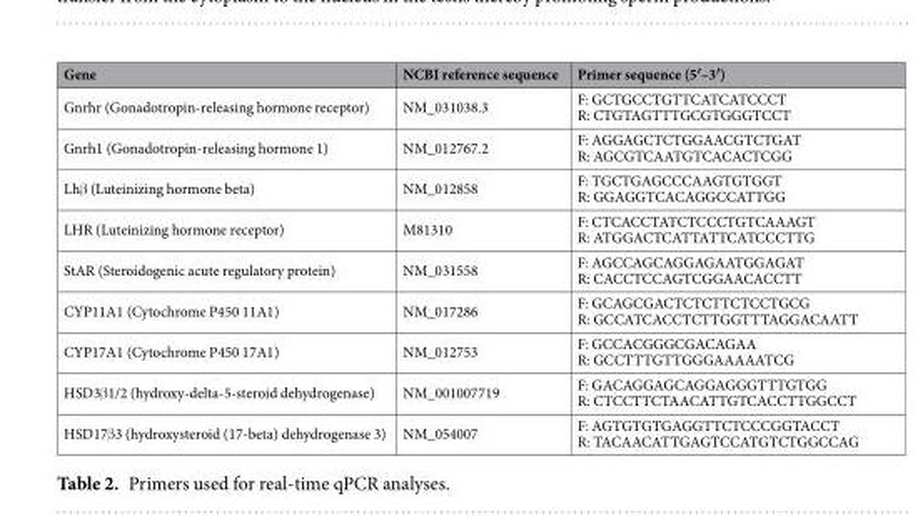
<table><thead><tr><td>Gene</td><td>NCBI reference sequence</td><td>Primer sequence (5′–3′)</td></tr></thead><tbody><tr><td>Gnrhr (Gonadotropin-releasing hormone receptor)</td><td>NM_031038.3</td><td>F: GCTGCCTGTTCATCATCCCT R: CTGTAGTTTGCGTGGGTCCT</td></tr><tr><td>Gnrh1 (Gonadotropin-releasing hormone 1)</td><td>NM_012767.2</td><td>F: AGGAGCTCTGGAACGTCTGAT R: AGCGTCAATGTCACACTCGG</td></tr><tr><td>Lhβ (Luteinizing hormone beta)</td><td>NM_012858</td><td>F: TGCTGAGCCCAAGTGTGGT R: GGAGGTCACAGGCCATTGG</td></tr><tr><td>LHR (Luteinizing hormone receptor)</td><td>M81310</td><td>F: CTCACCTATCTCCCTGTCAAAGT R: ATGGACTCATTATTCATCCCTTG</td></tr><tr><td>StAR (Steroidogenic acute regulatory protein)</td><td>NM_031558</td><td>F: AGCCAGCAGGAGAATGGAGAT R: CACCTCCAGTCGGAACACCTT</td></tr><tr><td>CYP11A1 (Cytochrome P450 11A1)</td><td>NM_017286</td><td>F: GCAGCGACTCTCTTCTCCTGCG R: GCCATCACCTCTTGGTTTAGGACAATT</td></tr><tr><td>CYP17A1 (Cytochrome P450 17A1)</td><td>NM_012753</td><td>F: GCCACGGGCGACAGAA R: GCCTTTGTTGGGAAAAATCG</td></tr><tr><td>HSD3β1/2 (hydroxy-delta-5-steroid dehydrogenase)</td><td>NM_001007719</td><td>F: GACAGGAGCAGGAGGGTTTGTGG R: CTCCTTCTAACATTGTCACCTTGGCCT</td></tr><tr><td>HSD17β3 (hydroxysteroid (17-beta) dehydrogenase 3)</td><td>NM_054007</td><td>F: AGTGTGTGAGGTTCTCCCGGTACCT R: TACAACATTGAGTCCATGTCTGGCCAG</td></tr></tbody></table>